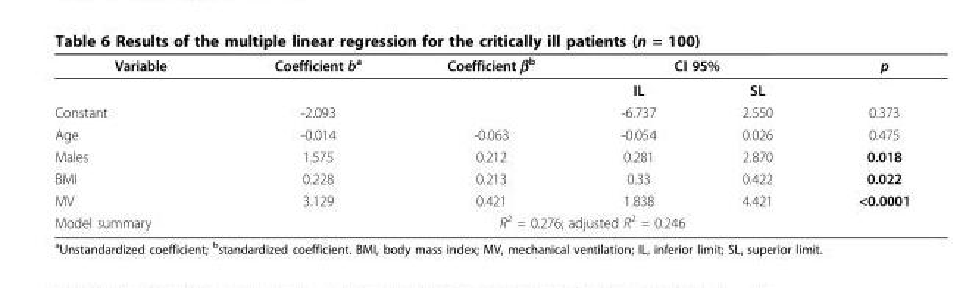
<table><thead><tr><td rowspan="2">Variable</td><td rowspan="2">Coefficient b<sup>a</sup></td><td rowspan="2">Coefficient β<sup>b</sup></td><td colspan="2">CI 95%</td><td rowspan="2">p</td></tr><tr><td>IL</td><td>SL</td></tr></thead><tbody><tr><td>Constant</td><td>-2.093</td><td></td><td>-6.737</td><td>2.550</td><td>0.373</td></tr><tr><td>Age</td><td>-0.014</td><td>-0.063</td><td>-0.054</td><td>0.026</td><td>0.475</td></tr><tr><td>Males</td><td>1.575</td><td>0.212</td><td>0.281</td><td>2.870</td><td>0.018</td></tr><tr><td>BMI</td><td>0.228</td><td>0.213</td><td>0.33</td><td>0.422</td><td>0.022</td></tr><tr><td>MV</td><td>3.129</td><td>0.421</td><td>1.838</td><td>4.421</td><td>&lt;0.0001</td></tr><tr><td>Model summary</td><td colspan="5">R<sup>2</sup> = 0.276; adjusted R<sup>2</sup> = 0.246</td></tr></tbody></table>